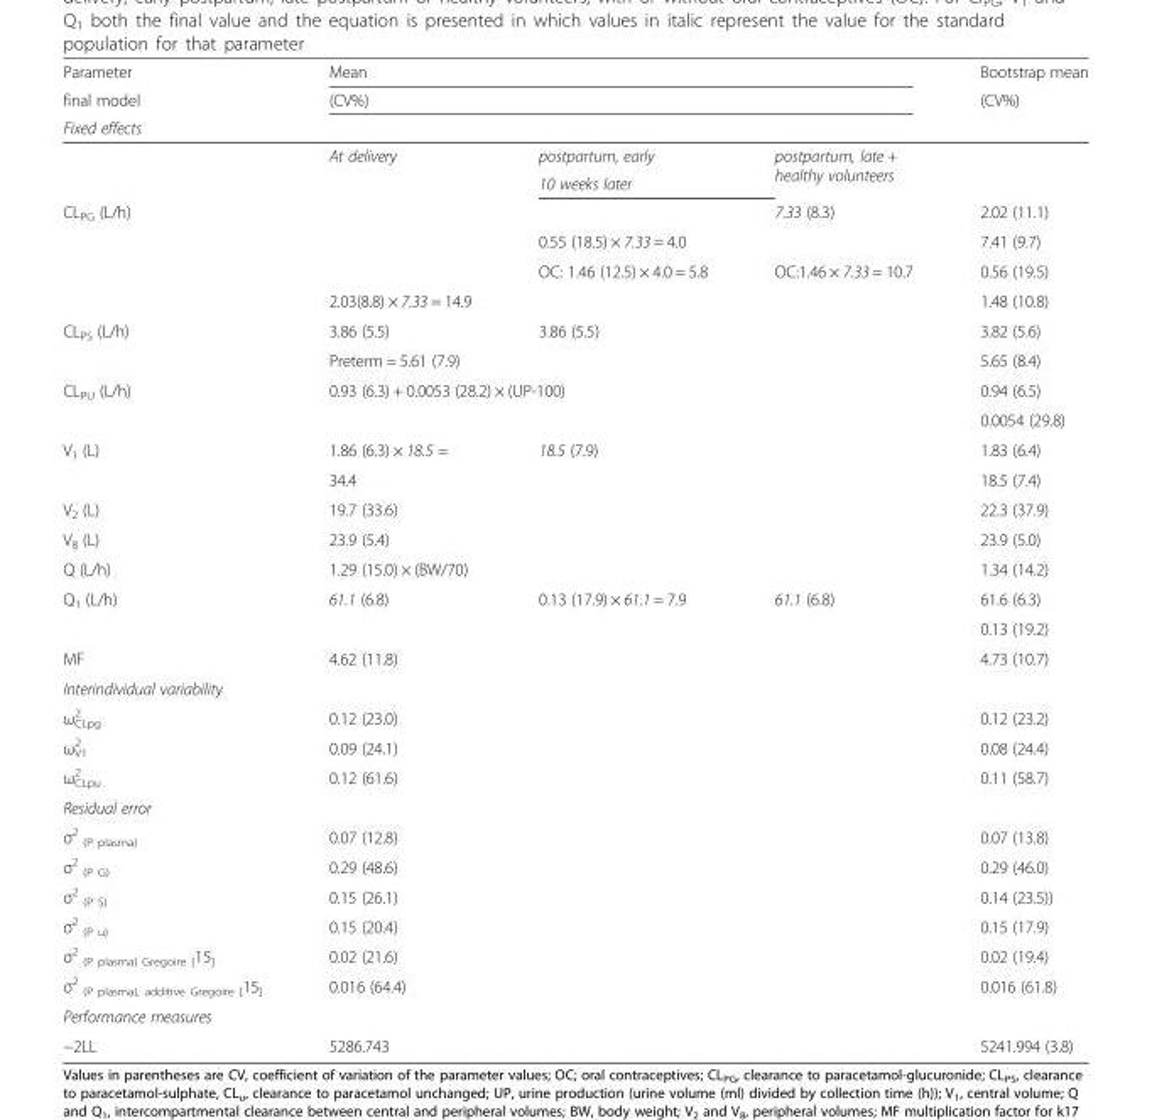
<table><thead><tr><td rowspan="2">Parameter final model</td><td rowspan="2" colspan="3">Mean (CV%)</td><td rowspan="2">Bootstrap mean (CV%)</td></tr><tr></tr><tr><td colspan="5">Fixed effects</td></tr><tr><td rowspan="2"></td><td rowspan="2">At delivery</td><td rowspan="2">postpartum, early 10 weeks later</td><td rowspan="2">postpartum, late + healthy volunteers</td><td rowspan="2"></td></tr><tr></tr></thead><tbody><tr><td rowspan="4">CL<sub>PG</sub> (L/h)</td><td></td><td></td><td>7.33 (8.3)</td><td>2.02 (11.1)</td></tr><tr><td></td><td>0.55 (18.5) × 7.33 = 4.0</td><td></td><td>7.41 (9.7)</td></tr><tr><td></td><td>OC: 1.46 (12.5) × 4.0 = 5.8</td><td>OC:1.46 × 7.33 = 10.7</td><td>0.56 (19.5)</td></tr><tr><td>2.03(8.8) × 7.33 = 14.9</td><td></td><td></td><td>1.48 (10.8)</td></tr><tr><td rowspan="2">CL<sub>PS</sub> (L/h)</td><td>3.86 (5.5)</td><td rowspan="2" colspan="2">3.86 (5.5)</td><td>3.82 (5.6)</td></tr><tr><td>Preterm = 5.61 (7.9)</td><td>5.65 (8.4)</td></tr><tr><td rowspan="2">CL<sub>PU</sub> (L/h)</td><td rowspan="2" colspan="3">0.93 (6.3) + 0.0053 (28.2) × (UP-100)</td><td>0.94 (6.5)</td></tr><tr><td>0.0054 (29.8)</td></tr><tr><td rowspan="2">V<sub>1</sub> (L)</td><td>1.86 (6.3) × 18.5 =</td><td rowspan="2" colspan="2">18.5 (7.9)</td><td>1.83 (6.4)</td></tr><tr><td>34.4</td><td>18.5 (7.4)</td></tr><tr><td>V<sub>2</sub> (L)</td><td colspan="3">19.7 (33.6)</td><td>22.3 (37.9)</td></tr><tr><td>V<sub>8</sub> (L)</td><td colspan="3">23.9 (5.4)</td><td>23.9 (5.0)</td></tr><tr><td>Q (L/h)</td><td colspan="3">1.29 (15.0) × (BW/70)</td><td>1.34 (14.2)</td></tr><tr><td rowspan="2">Q<sub>1</sub> (L/h)</td><td rowspan="2">61.1 (6.8)</td><td rowspan="2">0.13 (17.9) × 61.1 = 7.9</td><td rowspan="2">61.1 (6.8)</td><td>61.6 (6.3)</td></tr><tr><td>0.13 (19.2)</td></tr><tr><td>MF</td><td colspan="3">4.62 (11.8)</td><td>4.73 (10.7)</td></tr><tr><td colspan="5">Interindividual variability</td></tr><tr><td>ω<sub>CLpg</sub> <sup>2</sup></td><td colspan="3">0.12 (23.0)</td><td>0.12 (23.2)</td></tr><tr><td>ω<sub>V1</sub> <sup>2</sup></td><td colspan="3">0.09 (24.1)</td><td>0.08 (24.4)</td></tr><tr><td>ω<sub>CLpu</sub> <sup>2</sup></td><td colspan="3">0.12 (61.6)</td><td>0.11 (58.7)</td></tr><tr><td colspan="5">Residual error</td></tr><tr><td>σ<sup>2</sup> <sub>(P plasma)</sub></td><td colspan="3">0.07 (12.8)</td><td>0.07 (13.8)</td></tr><tr><td>σ<sup>2</sup> <sub>(P G)</sub></td><td colspan="3">0.29 (48.6)</td><td>0.29 (46.0)</td></tr><tr><td>σ<sup>2</sup> <sub>(P S)</sub></td><td colspan="3">0.15 (26.1)</td><td>0.14 (23.5))</td></tr><tr><td>σ<sup>2</sup> <sub>(P u)</sub></td><td colspan="3">0.15 (20.4)</td><td>0.15 (17.9)</td></tr><tr><td>σ<sup>2</sup> <sub>(P plasma) Gregoire [</sub>15<sub>]</sub></td><td colspan="3">0.02 (21.6)</td><td>0.02 (19.4)</td></tr><tr><td>σ<sup>2</sup> <sub>(P plasma), additive Gregoire [</sub>15<sub>]</sub></td><td colspan="3">0.016 (64.4)</td><td>0.016 (61.8)</td></tr><tr><td colspan="5">Performance measures</td></tr><tr><td>−2LL</td><td colspan="3">5286.743</td><td>5241.994 (3.8)</td></tr></tbody></table>